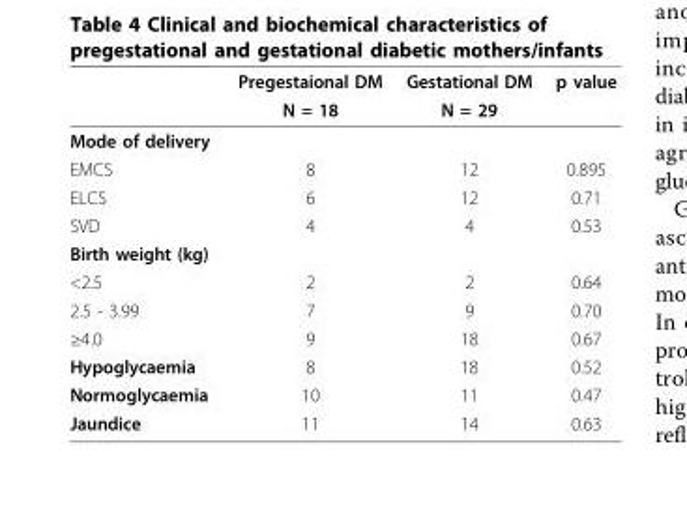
<table><thead><tr><td rowspan="2"></td><td rowspan="2">Pregestaional DM N = 18</td><td rowspan="2">Gestational DM N = 29</td><td rowspan="2">p value</td></tr><tr></tr></thead><tbody><tr><td colspan="4">Mode of delivery</td></tr><tr><td>EMCS</td><td>8</td><td>12</td><td>0.895</td></tr><tr><td>ELCS</td><td>6</td><td>12</td><td>0.71</td></tr><tr><td>SVD</td><td>4</td><td>4</td><td>0.53</td></tr><tr><td colspan="4">Birth weight (kg)</td></tr><tr><td>&lt;2.5</td><td>2</td><td>2</td><td>0.64</td></tr><tr><td>2.5 - 3.99</td><td>7</td><td>9</td><td>0.70</td></tr><tr><td>≥4.0</td><td>9</td><td>18</td><td>0.67</td></tr><tr><td>Hypoglycaemia</td><td>8</td><td>18</td><td>0.52</td></tr><tr><td>Normoglycaemia</td><td>10</td><td>11</td><td>0.47</td></tr><tr><td>Jaundice</td><td>11</td><td>14</td><td>0.63</td></tr></tbody></table>